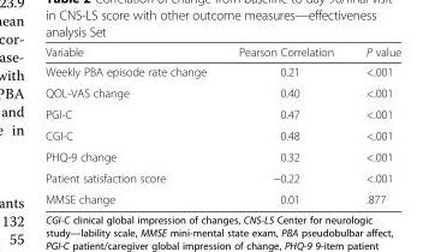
<table><thead><tr><td>Variable</td><td>Pearson Correlation</td><td>P value</td></tr></thead><tbody><tr><td>Weekly PBA episode rate change</td><td>0.21</td><td>&lt;.001</td></tr><tr><td>QOL-VAS change</td><td>0.40</td><td>&lt;.001</td></tr><tr><td>PGI-C</td><td>0.47</td><td>&lt;.001</td></tr><tr><td>CGI-C</td><td>0.48</td><td>&lt;.001</td></tr><tr><td>PHQ-9 change</td><td>0.32</td><td>&lt;.001</td></tr><tr><td>Patient satisfaction score</td><td>−0.22</td><td>&lt;.001</td></tr><tr><td>MMSE change</td><td>0.01</td><td>.877</td></tr></tbody></table>